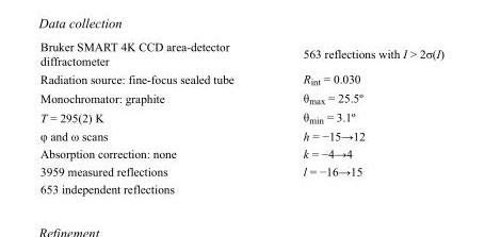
<table><tbody><tr><td>Bruker SMART 4K CCD area-detector diffractometer</td><td>563 reflections with I &gt; 2σ(I)</td></tr><tr><td>Radiation source: fine-focus sealed tube</td><td>R<sub>int</sub> = 0.030</td></tr><tr><td>Monochromator: graphite</td><td>θ<sub>max</sub> = 25.5º</td></tr><tr><td>T = 295(2) K</td><td>θ<sub>min</sub> = 3.1º</td></tr><tr><td>φ and ω scans</td><td>h = −15→12</td></tr><tr><td>Absorption correction: none</td><td>k = −4→4</td></tr><tr><td>3959 measured reflections</td><td>l = −16→15</td></tr><tr><td>653 independent reflections</td><td></td></tr></tbody></table>